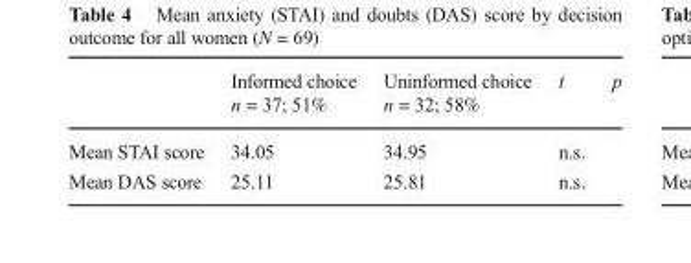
<table><thead><tr><td rowspan="2"></td><td rowspan="2">Informed choice n = 37; 51%</td><td rowspan="2">Uninformed choice n = 32; 58%</td><td rowspan="2">t</td><td rowspan="2">p</td></tr><tr></tr></thead><tbody><tr><td>Mean STAI score</td><td>34.05</td><td>34.95</td><td>n.s.</td><td></td></tr><tr><td>Mean DAS score</td><td>25.11</td><td>25.81</td><td>n.s.</td><td></td></tr></tbody></table>